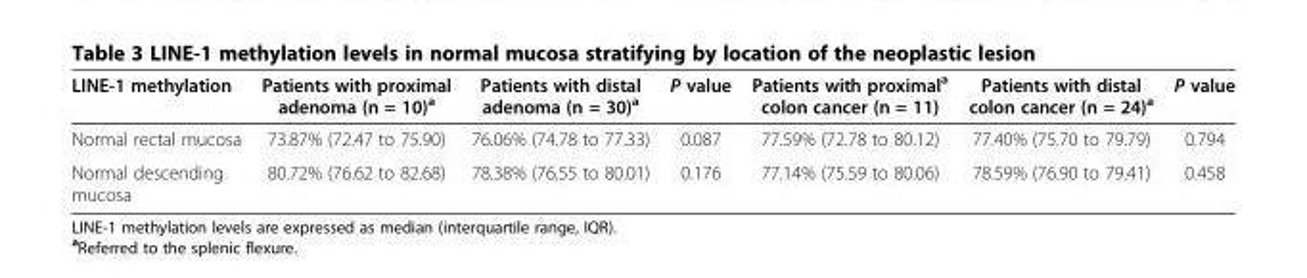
<table><thead><tr><td>LINE-1 methylation</td><td>Patients with proximal adenoma (n = 10)<sup>a</sup></td><td>Patients with distal adenoma (n = 30)<sup>a</sup></td><td>P value</td><td>Patients with proximal<sup>a</sup> colon cancer (n = 11)</td><td>Patients with distal colon cancer (n = 24)<sup>a</sup></td><td>P value</td></tr></thead><tbody><tr><td>Normal rectal mucosa</td><td>73.87% (72.47 to 75.90)</td><td>76.06% (74.78 to 77.33)</td><td>0.087</td><td>77.59% (72.78 to 80.12)</td><td>77.40% (75.70 to 79.79)</td><td>0.794</td></tr><tr><td>Normal descending mucosa</td><td>80.72% (76.62 to 82.68)</td><td>78.38% (76.55 to 80.01)</td><td>0.176</td><td>77.14% (75.59 to 80.06)</td><td>78.59% (76.90 to 79.41)</td><td>0.458</td></tr></tbody></table>